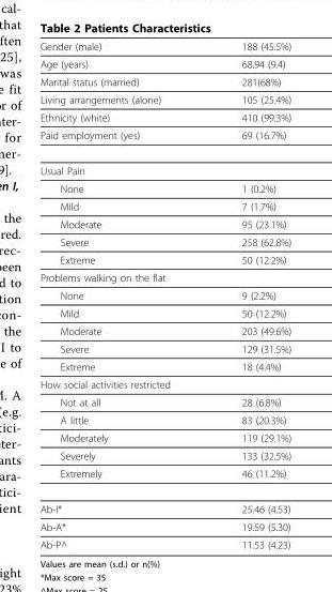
<table><thead><tr><td>Gender (male)</td><td>188 (45.5%)</td></tr></thead><tbody><tr><td>Age (years)</td><td>68.94 (9.4)</td></tr><tr><td>Marital status (married)</td><td>281(68%)</td></tr><tr><td>Living arrangements (alone)</td><td>105 (25.4%)</td></tr><tr><td>Ethnicity (white)</td><td>410 (99.3%)</td></tr><tr><td>Paid employment (yes)</td><td>69 (16.7%)</td></tr><tr><td colspan="2">Usual Pain</td></tr><tr><td>None</td><td>1 (0.2%)</td></tr><tr><td>Mild</td><td>7 (1.7%)</td></tr><tr><td>Moderate</td><td>95 (23.1%)</td></tr><tr><td>Severe</td><td>258 (62.8%)</td></tr><tr><td>Extreme</td><td>50 (12.2%)</td></tr><tr><td colspan="2">Problems walking on the flat</td></tr><tr><td>None</td><td>9 (2.2%)</td></tr><tr><td>Mild</td><td>50 (12.2%)</td></tr><tr><td>Moderate</td><td>203 (49.6%)</td></tr><tr><td>Severe</td><td>129 (31.5%)</td></tr><tr><td>Extreme</td><td>18 (4.4%)</td></tr><tr><td colspan="2">How social activities restricted</td></tr><tr><td>Not at all</td><td>28 (6.8%)</td></tr><tr><td>A little</td><td>83 (20.3%)</td></tr><tr><td>Moderately</td><td>119 (29.1%)</td></tr><tr><td>Severely</td><td>133 (32.5%)</td></tr><tr><td>Extremely</td><td>46 (11.2%)</td></tr><tr><td>Ab-I*</td><td>25.46 (4.53)</td></tr><tr><td>Ab-A*</td><td>19.59 (5.30)</td></tr><tr><td>Ab-P^</td><td>11.53 (4.23)</td></tr></tbody></table>